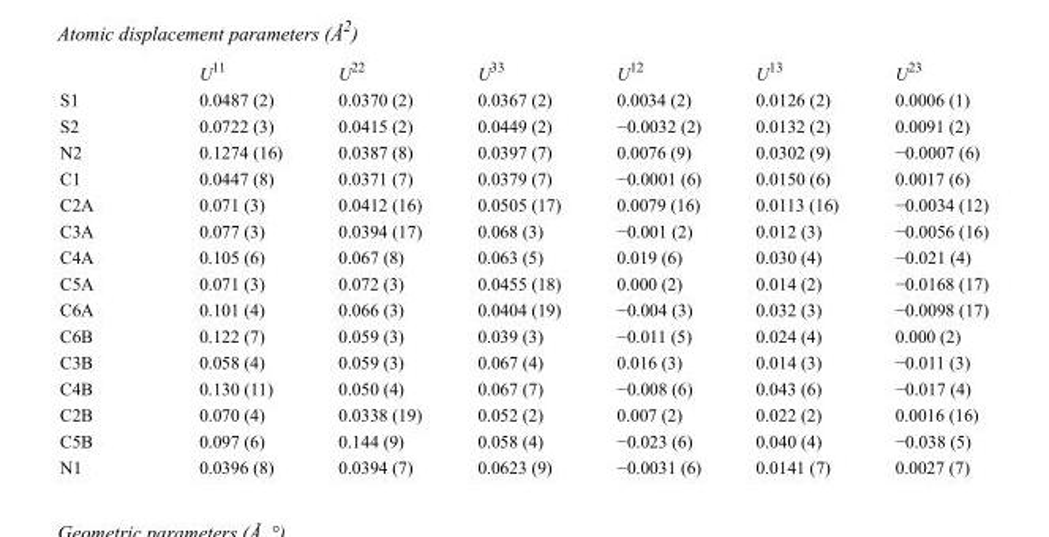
<table><thead><tr><td></td><td>U<sup>11</sup></td><td>U<sup>22</sup></td><td>U<sup>33</sup></td><td>U<sup>12</sup></td><td>U<sup>13</sup></td><td>U<sup>23</sup></td></tr></thead><tbody><tr><td>S1</td><td>0.0487 (2)</td><td>0.0370 (2)</td><td>0.0367 (2)</td><td>0.0034 (2)</td><td>0.0126 (2)</td><td>0.0006 (1)</td></tr><tr><td>S2</td><td>0.0722 (3)</td><td>0.0415 (2)</td><td>0.0449 (2)</td><td>−0.0032 (2)</td><td>0.0132 (2)</td><td>0.0091 (2)</td></tr><tr><td>N2</td><td>0.1274 (16)</td><td>0.0387 (8)</td><td>0.0397 (7)</td><td>0.0076 (9)</td><td>0.0302 (9)</td><td>−0.0007 (6)</td></tr><tr><td>C1</td><td>0.0447 (8)</td><td>0.0371 (7)</td><td>0.0379 (7)</td><td>−0.0001 (6)</td><td>0.0150 (6)</td><td>0.0017 (6)</td></tr><tr><td>C2A</td><td>0.071 (3)</td><td>0.0412 (16)</td><td>0.0505 (17)</td><td>0.0079 (16)</td><td>0.0113 (16)</td><td>−0.0034 (12)</td></tr><tr><td>C3A</td><td>0.077 (3)</td><td>0.0394 (17)</td><td>0.068 (3)</td><td>−0.001 (2)</td><td>0.012 (3)</td><td>−0.0056 (16)</td></tr><tr><td>C4A</td><td>0.105 (6)</td><td>0.067 (8)</td><td>0.063 (5)</td><td>0.019 (6)</td><td>0.030 (4)</td><td>−0.021 (4)</td></tr><tr><td>C5A</td><td>0.071 (3)</td><td>0.072 (3)</td><td>0.0455 (18)</td><td>0.000 (2)</td><td>0.014 (2)</td><td>−0.0168 (17)</td></tr><tr><td>C6A</td><td>0.101 (4)</td><td>0.066 (3)</td><td>0.0404 (19)</td><td>−0.004 (3)</td><td>0.032 (3)</td><td>−0.0098 (17)</td></tr><tr><td>C6B</td><td>0.122 (7)</td><td>0.059 (3)</td><td>0.039 (3)</td><td>−0.011 (5)</td><td>0.024 (4)</td><td>0.000 (2)</td></tr><tr><td>C3B</td><td>0.058 (4)</td><td>0.059 (3)</td><td>0.067 (4)</td><td>0.016 (3)</td><td>0.014 (3)</td><td>−0.011 (3)</td></tr><tr><td>C4B</td><td>0.130 (11)</td><td>0.050 (4)</td><td>0.067 (7)</td><td>−0.008 (6)</td><td>0.043 (6)</td><td>−0.017 (4)</td></tr><tr><td>C2B</td><td>0.070 (4)</td><td>0.0338 (19)</td><td>0.052 (2)</td><td>0.007 (2)</td><td>0.022 (2)</td><td>0.0016 (16)</td></tr><tr><td>C5B</td><td>0.097 (6)</td><td>0.144 (9)</td><td>0.058 (4)</td><td>−0.023 (6)</td><td>0.040 (4)</td><td>−0.038 (5)</td></tr><tr><td>N1</td><td>0.0396 (8)</td><td>0.0394 (7)</td><td>0.0623 (9)</td><td>−0.0031 (6)</td><td>0.0141 (7)</td><td>0.0027 (7)</td></tr></tbody></table>